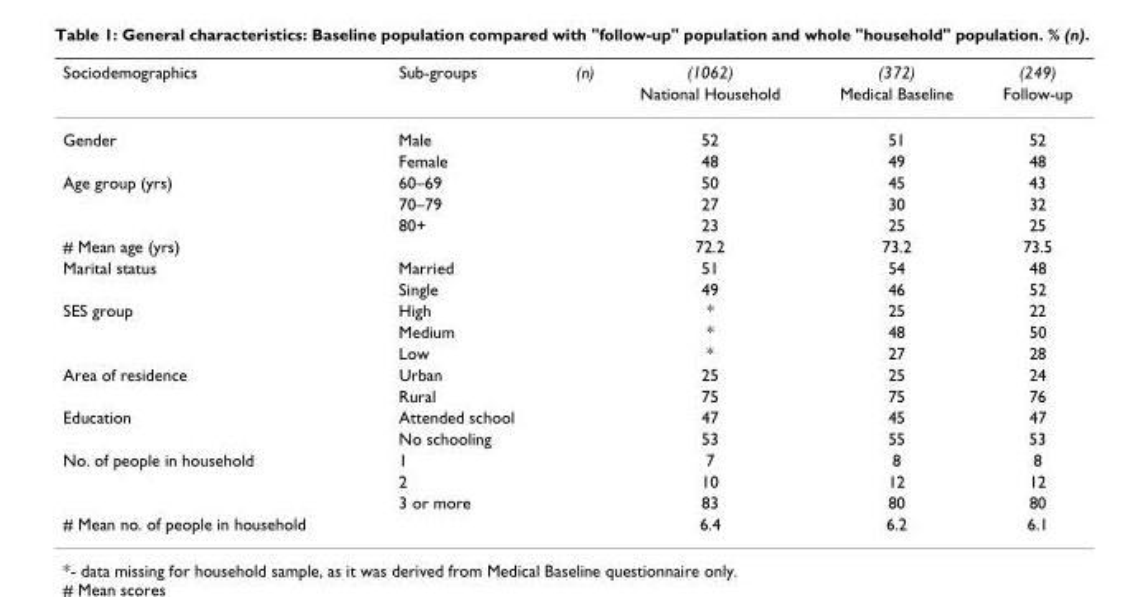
<table><thead><tr><td rowspan="2">Sociodemographics</td><td rowspan="2">Sub-groups</td><td rowspan="2">(n)</td><td rowspan="2">(1062) National Household</td><td rowspan="2">(372) Medical Baseline</td><td rowspan="2">(249) Follow-up</td></tr><tr></tr></thead><tbody><tr><td rowspan="2">Gender</td><td>Male</td><td></td><td>52</td><td>51</td><td>52</td></tr><tr><td>Female</td><td></td><td>48</td><td>49</td><td>48</td></tr><tr><td rowspan="3">Age group (yrs)</td><td>60–69</td><td></td><td>50</td><td>45</td><td>43</td></tr><tr><td>70–79</td><td></td><td>27</td><td>30</td><td>32</td></tr><tr><td>80+</td><td></td><td>23</td><td>25</td><td>25</td></tr><tr><td># Mean age (yrs)</td><td></td><td></td><td>72.2</td><td>73.2</td><td>73.5</td></tr><tr><td rowspan="2">Marital status</td><td>Married</td><td></td><td>51</td><td>54</td><td>48</td></tr><tr><td>Single</td><td></td><td>49</td><td>46</td><td>52</td></tr><tr><td rowspan="3">SES group</td><td>High</td><td></td><td>*</td><td>25</td><td>22</td></tr><tr><td>Medium</td><td></td><td>*</td><td>48</td><td>50</td></tr><tr><td>Low</td><td></td><td>*</td><td>27</td><td>28</td></tr><tr><td rowspan="2">Area of residence</td><td>Urban</td><td></td><td>25</td><td>25</td><td>24</td></tr><tr><td>Rural</td><td></td><td>75</td><td>75</td><td>76</td></tr><tr><td rowspan="2">Education</td><td>Attended school</td><td></td><td>47</td><td>45</td><td>47</td></tr><tr><td>No schooling</td><td></td><td>53</td><td>55</td><td>53</td></tr><tr><td rowspan="3">No. of people in household</td><td>1</td><td></td><td>7</td><td>8</td><td>8</td></tr><tr><td>2</td><td></td><td>10</td><td>12</td><td>12</td></tr><tr><td>3 or more</td><td></td><td>83</td><td>80</td><td>80</td></tr><tr><td># Mean no. of people in household</td><td></td><td></td><td>6.4</td><td>6.2</td><td>6.1</td></tr></tbody></table>